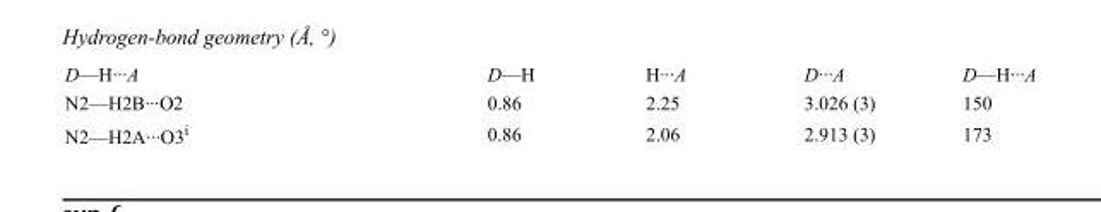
<table><tbody><tr><td>D—H···A</td><td>D—H</td><td>H···A</td><td>D···A</td><td>D—H···A</td></tr><tr><td>N2—H2B···O2</td><td>0.86</td><td>2.25</td><td>3.026 (3)</td><td>150</td></tr><tr><td>N2—H2A···O3<sup>i</sup></td><td>0.86</td><td>2.06</td><td>2.913 (3)</td><td>173</td></tr></tbody></table>